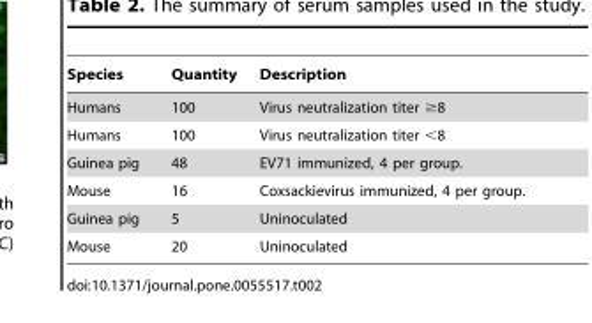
<table><thead><tr><td>Species</td><td>Quantity</td><td>Description</td></tr></thead><tbody><tr><td>Humans</td><td>100</td><td>Virus neutralization titer ≥8</td></tr><tr><td>Humans</td><td>100</td><td>Virus neutralization titer &lt;8</td></tr><tr><td>Guinea pig</td><td>48</td><td>EV71 immunized, 4 per group.</td></tr><tr><td>Mouse</td><td>16</td><td>Coxsackievirus immunized, 4 per group.</td></tr><tr><td>Guinea pig</td><td>5</td><td>Uninoculated</td></tr><tr><td>Mouse</td><td>20</td><td>Uninoculated</td></tr></tbody></table>